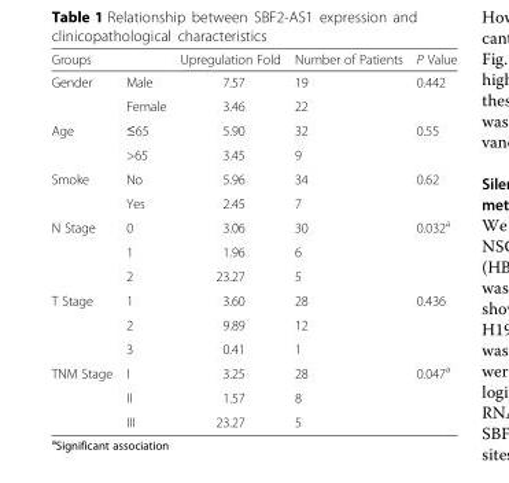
<table><thead><tr><td colspan="2">Groups</td><td rowspan="2">Upregulation Fold 7.57</td><td rowspan="2">Number of Patients 19</td><td rowspan="2">P Value 0.442</td></tr><tr><td>Gender</td><td>Male</td></tr></thead><tbody><tr><td></td><td>Female</td><td>3.46</td><td>22</td><td></td></tr><tr><td rowspan="2">Age</td><td>≤65</td><td>5.90</td><td>32</td><td>0.55</td></tr><tr><td>&gt;65</td><td>3.45</td><td>9</td><td></td></tr><tr><td rowspan="2">Smoke</td><td>No</td><td>5.96</td><td>34</td><td>0.62</td></tr><tr><td>Yes</td><td>2.45</td><td>7</td><td></td></tr><tr><td rowspan="3">N Stage</td><td>0</td><td>3.06</td><td>30</td><td>0.032<sup>a</sup></td></tr><tr><td>1</td><td>1.96</td><td>6</td><td></td></tr><tr><td>2</td><td>23.27</td><td>5</td><td></td></tr><tr><td rowspan="3">T Stage</td><td>1</td><td>3.60</td><td>28</td><td>0.436</td></tr><tr><td>2</td><td>9.89</td><td>12</td><td></td></tr><tr><td>3</td><td>0.41</td><td>1</td><td></td></tr><tr><td rowspan="3">TNM Stage</td><td>I</td><td>3.25</td><td>28</td><td>0.047<sup>a</sup></td></tr><tr><td>II</td><td>1.57</td><td>8</td><td></td></tr><tr><td>III</td><td>23.27</td><td>5</td><td></td></tr></tbody></table>